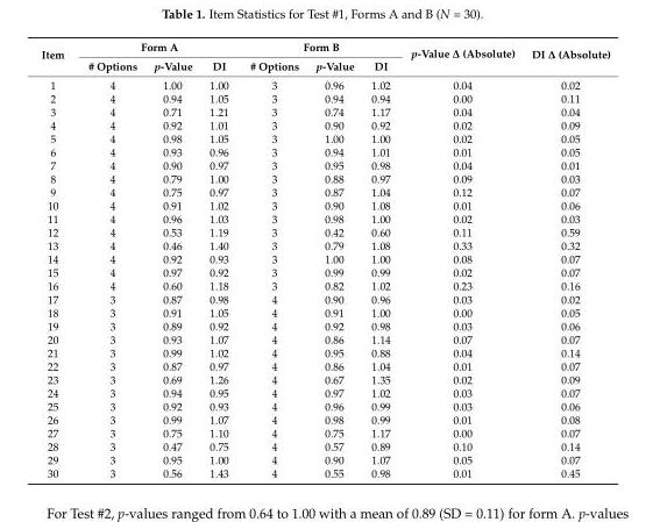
<table><thead><tr><td rowspan="2">Item</td><td colspan="3">Form A</td><td colspan="3">Form B</td><td rowspan="2">p-Value ∆ (Absolute)</td><td rowspan="2">DI ∆ (Absolute)</td></tr><tr><td># Options</td><td>p-Value</td><td>DI</td><td># Options</td><td>p-Value</td><td>DI</td></tr></thead><tbody><tr><td>1</td><td>4</td><td>1.00</td><td>1.00</td><td>3</td><td>0.96</td><td>1.02</td><td>0.04</td><td>0.02</td></tr><tr><td>2</td><td>4</td><td>0.94</td><td>1.05</td><td>3</td><td>0.94</td><td>0.94</td><td>0.00</td><td>0.11</td></tr><tr><td>3</td><td>4</td><td>0.71</td><td>1.21</td><td>3</td><td>0.74</td><td>1.17</td><td>0.04</td><td>0.04</td></tr><tr><td>4</td><td>4</td><td>0.92</td><td>1.01</td><td>3</td><td>0.90</td><td>0.92</td><td>0.02</td><td>0.09</td></tr><tr><td>5</td><td>4</td><td>0.98</td><td>1.05</td><td>3</td><td>1.00</td><td>1.00</td><td>0.02</td><td>0.05</td></tr><tr><td>6</td><td>4</td><td>0.93</td><td>0.96</td><td>3</td><td>0.94</td><td>1.01</td><td>0.01</td><td>0.05</td></tr><tr><td>7</td><td>4</td><td>0.90</td><td>0.97</td><td>3</td><td>0.95</td><td>0.98</td><td>0.04</td><td>0.01</td></tr><tr><td>8</td><td>4</td><td>0.79</td><td>1.00</td><td>3</td><td>0.88</td><td>0.97</td><td>0.09</td><td>0.03</td></tr><tr><td>9</td><td>4</td><td>0.75</td><td>0.97</td><td>3</td><td>0.87</td><td>1.04</td><td>0.12</td><td>0.07</td></tr><tr><td>10</td><td>4</td><td>0.91</td><td>1.02</td><td>3</td><td>0.90</td><td>1.08</td><td>0.01</td><td>0.06</td></tr><tr><td>11</td><td>4</td><td>0.96</td><td>1.03</td><td>3</td><td>0.98</td><td>1.00</td><td>0.02</td><td>0.03</td></tr><tr><td>12</td><td>4</td><td>0.53</td><td>1.19</td><td>3</td><td>0.42</td><td>0.60</td><td>0.11</td><td>0.59</td></tr><tr><td>13</td><td>4</td><td>0.46</td><td>1.40</td><td>3</td><td>0.79</td><td>1.08</td><td>0.33</td><td>0.32</td></tr><tr><td>14</td><td>4</td><td>0.92</td><td>0.93</td><td>3</td><td>1.00</td><td>1.00</td><td>0.08</td><td>0.07</td></tr><tr><td>15</td><td>4</td><td>0.97</td><td>0.92</td><td>3</td><td>0.99</td><td>0.99</td><td>0.02</td><td>0.07</td></tr><tr><td>16</td><td>4</td><td>0.60</td><td>1.18</td><td>3</td><td>0.82</td><td>1.02</td><td>0.23</td><td>0.16</td></tr><tr><td>17</td><td>3</td><td>0.87</td><td>0.98</td><td>4</td><td>0.90</td><td>0.96</td><td>0.03</td><td>0.02</td></tr><tr><td>18</td><td>3</td><td>0.91</td><td>1.05</td><td>4</td><td>0.91</td><td>1.00</td><td>0.00</td><td>0.05</td></tr><tr><td>19</td><td>3</td><td>0.89</td><td>0.92</td><td>4</td><td>0.92</td><td>0.98</td><td>0.03</td><td>0.06</td></tr><tr><td>20</td><td>3</td><td>0.93</td><td>1.07</td><td>4</td><td>0.86</td><td>1.14</td><td>0.07</td><td>0.07</td></tr><tr><td>21</td><td>3</td><td>0.99</td><td>1.02</td><td>4</td><td>0.95</td><td>0.88</td><td>0.04</td><td>0.14</td></tr><tr><td>22</td><td>3</td><td>0.87</td><td>0.97</td><td>4</td><td>0.86</td><td>1.04</td><td>0.01</td><td>0.07</td></tr><tr><td>23</td><td>3</td><td>0.69</td><td>1.26</td><td>4</td><td>0.67</td><td>1.35</td><td>0.02</td><td>0.09</td></tr><tr><td>24</td><td>3</td><td>0.94</td><td>0.95</td><td>4</td><td>0.97</td><td>1.02</td><td>0.03</td><td>0.07</td></tr><tr><td>25</td><td>3</td><td>0.92</td><td>0.93</td><td>4</td><td>0.96</td><td>0.99</td><td>0.03</td><td>0.06</td></tr><tr><td>26</td><td>3</td><td>0.99</td><td>1.07</td><td>4</td><td>0.98</td><td>0.99</td><td>0.01</td><td>0.08</td></tr><tr><td>27</td><td>3</td><td>0.75</td><td>1.10</td><td>4</td><td>0.75</td><td>1.17</td><td>0.00</td><td>0.07</td></tr><tr><td>28</td><td>3</td><td>0.47</td><td>0.75</td><td>4</td><td>0.57</td><td>0.89</td><td>0.10</td><td>0.14</td></tr><tr><td>29</td><td>3</td><td>0.95</td><td>1.00</td><td>4</td><td>0.90</td><td>1.07</td><td>0.05</td><td>0.07</td></tr><tr><td>30</td><td>3</td><td>0.56</td><td>1.43</td><td>4</td><td>0.55</td><td>0.98</td><td>0.01</td><td>0.45</td></tr></tbody></table>